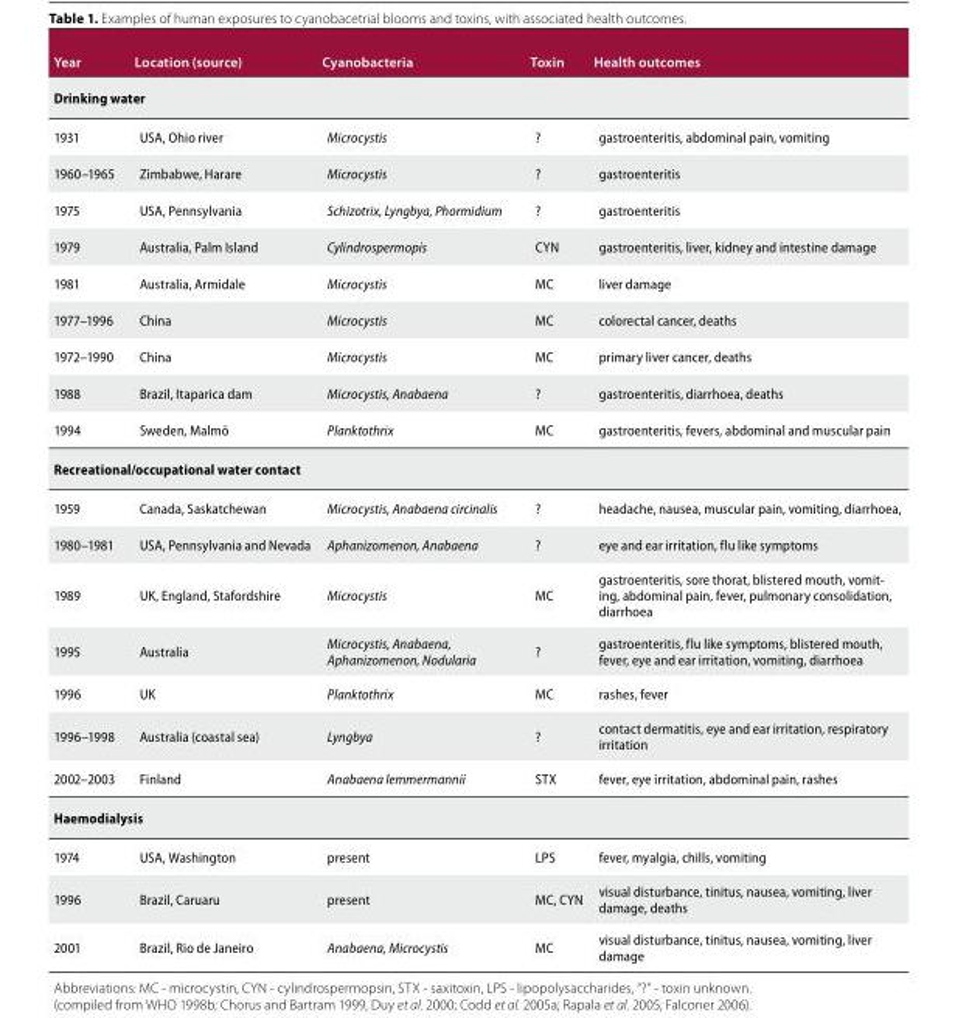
<table><thead><tr><td>Year</td><td>Location (source)</td><td>Cyanobacteria</td><td>Toxin</td><td>Health outcomes</td></tr></thead><tbody><tr><td colspan="5">Drinking water</td></tr><tr><td>1931</td><td>USA, Ohio river</td><td>Microcystis</td><td>?</td><td>gastroenteritis, abdominal pain, vomiting</td></tr><tr><td>1960–1965</td><td>Zimbabwe, Harare</td><td>Microcystis</td><td>?</td><td>gastroenteritis</td></tr><tr><td>1975</td><td>USA, Pennsylvania</td><td>Schizotrix, Lyngbya, Phormidium</td><td>?</td><td>gastroenteritis</td></tr><tr><td>1979</td><td>Australia, Palm Island</td><td>Cylindrospermopis</td><td>CYN</td><td>gastroenteritis, liver, kidney and intestine damage</td></tr><tr><td>1981</td><td>Australia, Armidale</td><td>Microcystis</td><td>MC</td><td>liver damage</td></tr><tr><td>1977–1996</td><td>China</td><td>Microcystis</td><td>MC</td><td>colorectal cancer, deaths</td></tr><tr><td>1972–1990</td><td>China</td><td>Microcystis</td><td>MC</td><td>primary liver cancer, deaths</td></tr><tr><td>1988</td><td>Brazil, Itaparica dam</td><td>Microcystis, Anabaena</td><td>?</td><td>gastroenteritis, diarrhoea, deaths</td></tr><tr><td>1994</td><td>Sweden, Malmö</td><td>Planktothrix</td><td>MC</td><td>gastroenteritis, fevers, abdominal and muscular pain</td></tr><tr><td colspan="5">Recreational/occupational water contact</td></tr><tr><td>1959</td><td>Canada, Saskatchewan</td><td>Microcystis, Anabaena circinalis</td><td>?</td><td>headache, nausea, muscular pain, vomiting, diarrhoea,</td></tr><tr><td>1980–1981</td><td>USA, Pennsylvania and Nevada</td><td>Aphanizomenon, Anabaena</td><td>?</td><td>eye and ear irritation, flu like symptoms</td></tr><tr><td>1989</td><td>UK, England, Stafordshire</td><td>Microcystis</td><td>MC</td><td>gastroenteritis, sore thorat, blistered mouth, vomit- ing, abdominal pain, fever, pulmonary consolidation, diarrhoea</td></tr><tr><td>1995</td><td>Australia</td><td>Microcystis, Anabaena, Aphanizomenon, Nodularia</td><td>?</td><td>gastroenteritis, flu like symptoms, blistered mouth, fever, eye and ear irritation, vomiting, diarrhoea</td></tr><tr><td>1996</td><td>UK</td><td>Planktothrix</td><td>MC</td><td>rashes, fever</td></tr><tr><td>1996–1998</td><td>Australia (coastal sea)</td><td>Lyngbya</td><td>?</td><td>contact dermatitis, eye and ear irritation, respiratory irritation</td></tr><tr><td>2002–2003</td><td>Finland</td><td>Anabaena lemmermannii</td><td>STX</td><td>fever, eye irritation, abdominal pain, rashes</td></tr><tr><td colspan="5">Haemodialysis</td></tr><tr><td>1974</td><td>USA, Washington</td><td>present</td><td>LPS</td><td>fever, myalgia, chills, vomiting</td></tr><tr><td>1996</td><td>Brazil, Caruaru</td><td>present</td><td>MC, CYN</td><td>visual disturbance, tinitus, nausea, vomiting, liver damage, deaths</td></tr><tr><td>2001</td><td>Brazil, Rio de Janeiro</td><td>Anabaena, Microcystis</td><td>MC</td><td>visual disturbance, tinitus, nausea, vomiting, liver damage</td></tr></tbody></table>